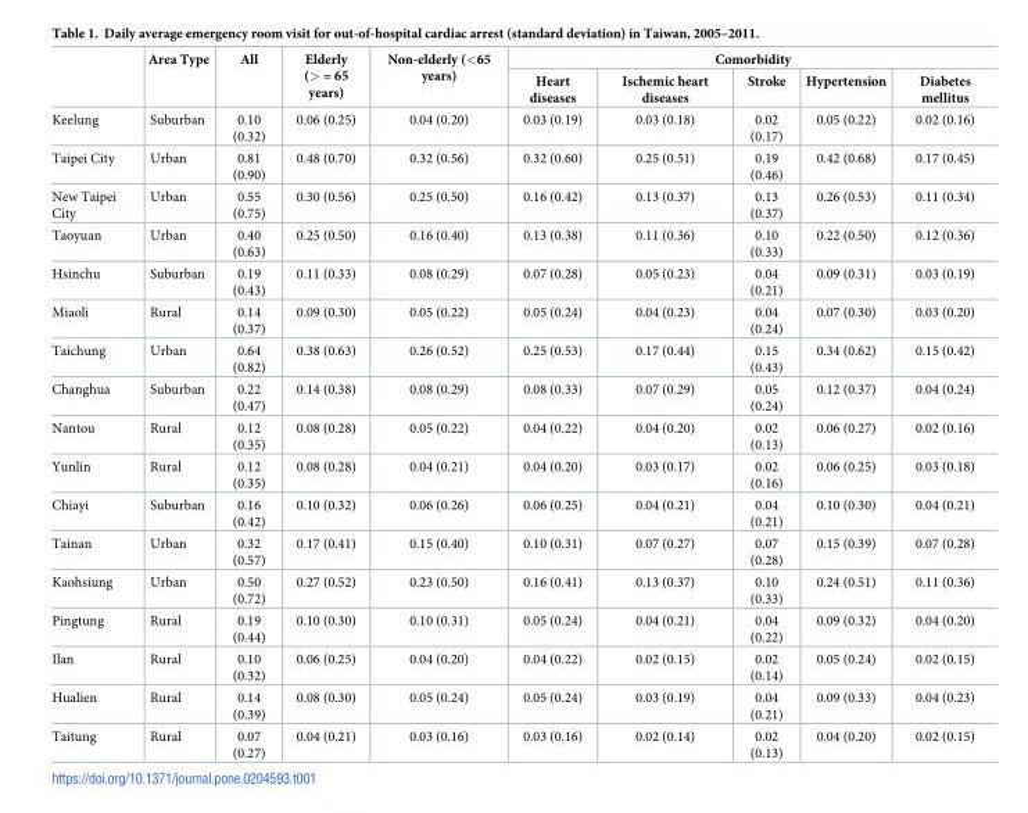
<table><thead><tr><td rowspan="2"></td><td rowspan="2">Area Type</td><td rowspan="2">All</td><td rowspan="2">Elderly (&gt; = 65 years)</td><td rowspan="2">Non-elderly (&lt;65 years)</td><td colspan="5">Comorbidity</td></tr><tr><td>Heart diseases</td><td>Ischemic heart diseases</td><td>Stroke</td><td>Hypertension</td><td>Diabetes mellitus</td></tr></thead><tbody><tr><td>Keelung</td><td>Suburban</td><td>0.10 (0.32)</td><td>0.06 (0.25)</td><td>0.04 (0.20)</td><td>0.03 (0.19)</td><td>0.03 (0.18)</td><td>0.02 (0.17)</td><td>0.05 (0.22)</td><td>0.02 (0.16)</td></tr><tr><td>Taipei City</td><td>Urban</td><td>0.81 (0.90)</td><td>0.48 (0.70)</td><td>0.32 (0.56)</td><td>0.32 (0.60)</td><td>0.25 (0.51)</td><td>0.19 (0.46)</td><td>0.42 (0.68)</td><td>0.17 (0.45)</td></tr><tr><td>New Taipei City</td><td>Urban</td><td>0.55 (0.75)</td><td>0.30 (0.56)</td><td>0.25 (0.50)</td><td>0.16 (0.42)</td><td>0.13 (0.37)</td><td>0.13 (0.37)</td><td>0.26 (0.53)</td><td>0.11 (0.34)</td></tr><tr><td>Taoyuan</td><td>Urban</td><td>0.40 (0.63)</td><td>0.25 (0.50)</td><td>0.16 (0.40)</td><td>0.13 (0.38)</td><td>0.11 (0.36)</td><td>0.10 (0.33)</td><td>0.22 (0.50)</td><td>0.12 (0.36)</td></tr><tr><td>Hsinchu</td><td>Suburban</td><td>0.19 (0.43)</td><td>0.11 (0.33)</td><td>0.08 (0.29)</td><td>0.07 (0.28)</td><td>0.05 (0.23)</td><td>0.04 (0.21)</td><td>0.09 (0.31)</td><td>0.03 (0.19)</td></tr><tr><td>Miaoli</td><td>Rural</td><td>0.14 (0.37)</td><td>0.09 (0.30)</td><td>0.05 (0.22)</td><td>0.05 (0.24)</td><td>0.04 (0.23)</td><td>0.04 (0.24)</td><td>0.07 (0.30)</td><td>0.03 (0.20)</td></tr><tr><td>Taichung</td><td>Urban</td><td>0.64 (0.82)</td><td>0.38 (0.63)</td><td>0.26 (0.52)</td><td>0.25 (0.53)</td><td>0.17 (0.44)</td><td>0.15 (0.43)</td><td>0.34 (0.62)</td><td>0.15 (0.42)</td></tr><tr><td>Changhua</td><td>Suburban</td><td>0.22 (0.47)</td><td>0.14 (0.38)</td><td>0.08 (0.29)</td><td>0.08 (0.33)</td><td>0.07 (0.29)</td><td>0.05 (0.24)</td><td>0.12 (0.37)</td><td>0.04 (0.24)</td></tr><tr><td>Nantou</td><td>Rural</td><td>0.12 (0.35)</td><td>0.08 (0.28)</td><td>0.05 (0.22)</td><td>0.04 (0.22)</td><td>0.04 (0.20)</td><td>0.02 (0.13)</td><td>0.06 (0.27)</td><td>0.02 (0.16)</td></tr><tr><td>Yunlin</td><td>Rural</td><td>0.12 (0.35)</td><td>0.08 (0.28)</td><td>0.04 (0.21)</td><td>0.04 (0.20)</td><td>0.03 (0.17)</td><td>0.02 (0.16)</td><td>0.06 (0.25)</td><td>0.03 (0.18)</td></tr><tr><td>Chiayi</td><td>Suburban</td><td>0.16 (0.42)</td><td>0.10 (0.32)</td><td>0.06 (0.26)</td><td>0.06 (0.25)</td><td>0.04 (0.21)</td><td>0.04 (0.21)</td><td>0.10 (0.30)</td><td>0.04 (0.21)</td></tr><tr><td>Tainan</td><td>Urban</td><td>0.32 (0.57)</td><td>0.17 (0.41)</td><td>0.15 (0.40)</td><td>0.10 (0.31)</td><td>0.07 (0.27)</td><td>0.07 (0.28)</td><td>0.15 (0.39)</td><td>0.07 (0.28)</td></tr><tr><td>Kaohsiung</td><td>Urban</td><td>0.50 (0.72)</td><td>0.27 (0.52)</td><td>0.23 (0.50)</td><td>0.16 (0.41)</td><td>0.13 (0.37)</td><td>0.10 (0.33)</td><td>0.24 (0.51)</td><td>0.11 (0.36)</td></tr><tr><td>Pingtung</td><td>Rural</td><td>0.19 (0.44)</td><td>0.10 (0.30)</td><td>0.10 (0.31)</td><td>0.05 (0.24)</td><td>0.04 (0.21)</td><td>0.04 (0.22)</td><td>0.09 (0.32)</td><td>0.04 (0.20)</td></tr><tr><td>Ilan</td><td>Rural</td><td>0.10 (0.32)</td><td>0.06 (0.25)</td><td>0.04 (0.20)</td><td>0.04 (0.22)</td><td>0.02 (0.15)</td><td>0.02 (0.14)</td><td>0.05 (0.24)</td><td>0.02 (0.15)</td></tr><tr><td>Hualien</td><td>Rural</td><td>0.14 (0.39)</td><td>0.08 (0.30)</td><td>0.05 (0.24)</td><td>0.05 (0.24)</td><td>0.03 (0.19)</td><td>0.04 (0.21)</td><td>0.09 (0.33)</td><td>0.04 (0.23)</td></tr><tr><td>Taitung</td><td>Rural</td><td>0.07 (0.27)</td><td>0.04 (0.21)</td><td>0.03 (0.16)</td><td>0.03 (0.16)</td><td>0.02 (0.14)</td><td>0.02 (0.13)</td><td>0.04 (0.20)</td><td>0.02 (0.15)</td></tr></tbody></table>